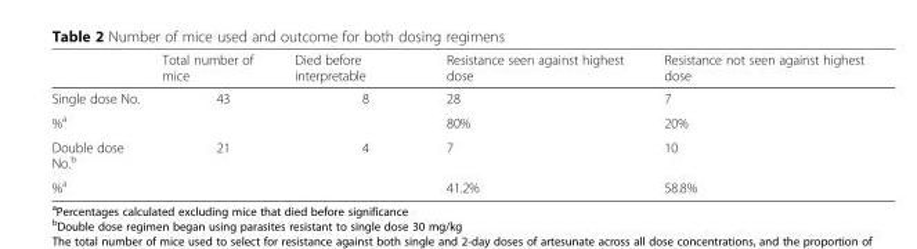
<table><thead><tr><td></td><td>Total number of mice</td><td>Died before interpretable</td><td>Resistance seen against highest dose</td><td>Resistance not seen against highest dose</td></tr></thead><tbody><tr><td>Single dose No.</td><td>43</td><td>8</td><td>28</td><td>7</td></tr><tr><td>%<sup>a</sup></td><td></td><td></td><td>80%</td><td>20%</td></tr><tr><td>Double dose No.<sup>b</sup></td><td>21</td><td>4</td><td>7</td><td>10</td></tr><tr><td>%<sup>a</sup></td><td></td><td></td><td>41.2%</td><td>58.8%</td></tr></tbody></table>